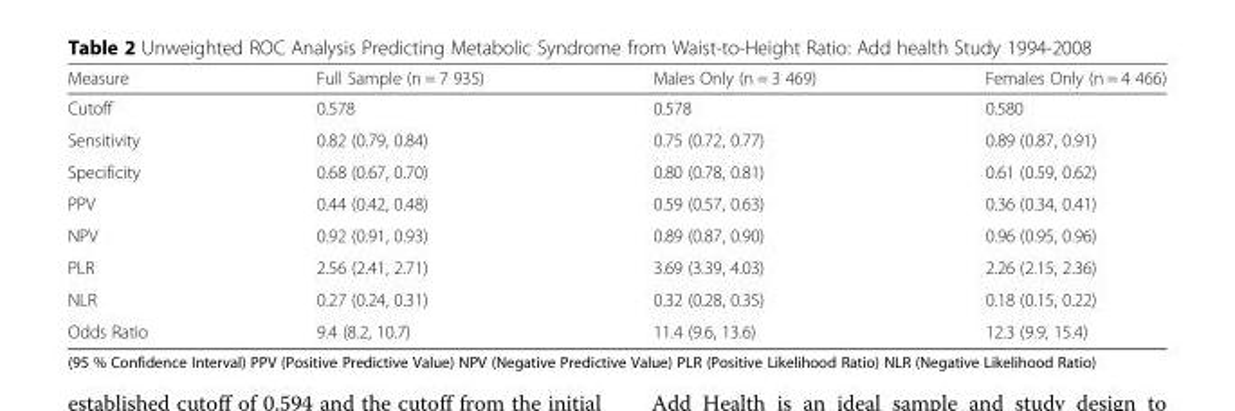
<table><thead><tr><td>Measure</td><td>Full Sample (n = 7 935)</td><td>Males Only (n = 3 469)</td><td>Females Only (n = 4 466)</td></tr></thead><tbody><tr><td>Cutoff</td><td>0.578</td><td>0.578</td><td>0.580</td></tr><tr><td>Sensitivity</td><td>0.82 (0.79, 0.84)</td><td>0.75 (0.72, 0.77)</td><td>0.89 (0.87, 0.91)</td></tr><tr><td>Specificity</td><td>0.68 (0.67, 0.70)</td><td>0.80 (0.78, 0.81)</td><td>0.61 (0.59, 0.62)</td></tr><tr><td>PPV</td><td>0.44 (0.42, 0.48)</td><td>0.59 (0.57, 0.63)</td><td>0.36 (0.34, 0.41)</td></tr><tr><td>NPV</td><td>0.92 (0.91, 0.93)</td><td>0.89 (0.87, 0.90)</td><td>0.96 (0.95, 0.96)</td></tr><tr><td>PLR</td><td>2.56 (2.41, 2.71)</td><td>3.69 (3.39, 4.03)</td><td>2.26 (2.15, 2.36)</td></tr><tr><td>NLR</td><td>0.27 (0.24, 0.31)</td><td>0.32 (0.28, 0.35)</td><td>0.18 (0.15, 0.22)</td></tr><tr><td>Odds Ratio</td><td>9.4 (8.2, 10.7)</td><td>11.4 (9.6, 13.6)</td><td>12.3 (9.9, 15.4)</td></tr></tbody></table>